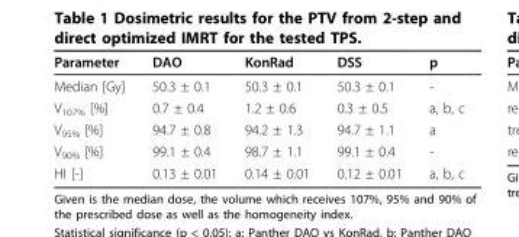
<table><thead><tr><td>Parameter</td><td>DAO</td><td>KonRad</td><td>DSS</td><td>p</td></tr></thead><tbody><tr><td>Median [Gy]</td><td>50.3 ± 0.1</td><td>50.3 ± 0.1</td><td>50.3 ± 0.1</td><td>-</td></tr><tr><td>V<sub>107%</sub> [%]</td><td>0.7 ± 0.4</td><td>1.2 ± 0.6</td><td>0.3 ± 0.5</td><td>a, b, c</td></tr><tr><td>V<sub>95%</sub> [%]</td><td>94.7 ± 0.8</td><td>94.2 ± 1.3</td><td>94.7 ± 1.1</td><td>a</td></tr><tr><td>V<sub>90%</sub> [%]</td><td>99.1 ± 0.4</td><td>98.7 ± 1.1</td><td>99.1 ± 0.4</td><td>-</td></tr><tr><td>HI [-]</td><td>0.13 ± 0.01</td><td>0.14 ± 0.01</td><td>0.12 ± 0.01</td><td>a, b, c</td></tr></tbody></table>